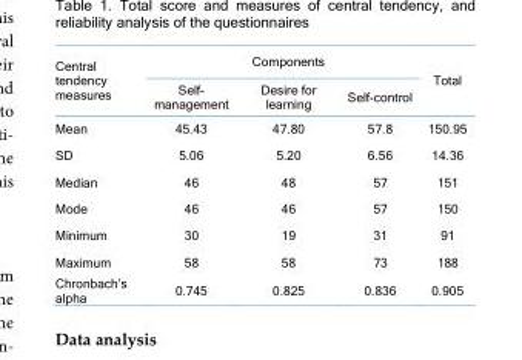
<table><thead><tr><td rowspan="2">Central tendency measures</td><td rowspan="2">Self- management</td><td rowspan="2">Components Desire for learning</td><td rowspan="2">Self-control</td><td rowspan="2">Total</td></tr><tr></tr></thead><tbody><tr><td>Mean</td><td>45.43</td><td>47.80</td><td>57.8</td><td>150.95</td></tr><tr><td>SD</td><td>5.06</td><td>5.20</td><td>6.56</td><td>14.36</td></tr><tr><td>Median</td><td>46</td><td>48</td><td>57</td><td>151</td></tr><tr><td>Mode</td><td>46</td><td>46</td><td>57</td><td>150</td></tr><tr><td>Minimum</td><td>30</td><td>19</td><td>31</td><td>91</td></tr><tr><td>Maximum</td><td>58</td><td>58</td><td>73</td><td>188</td></tr><tr><td>Chronbach’s alpha</td><td>0.745</td><td>0.825</td><td>0.836</td><td>0.905</td></tr></tbody></table>